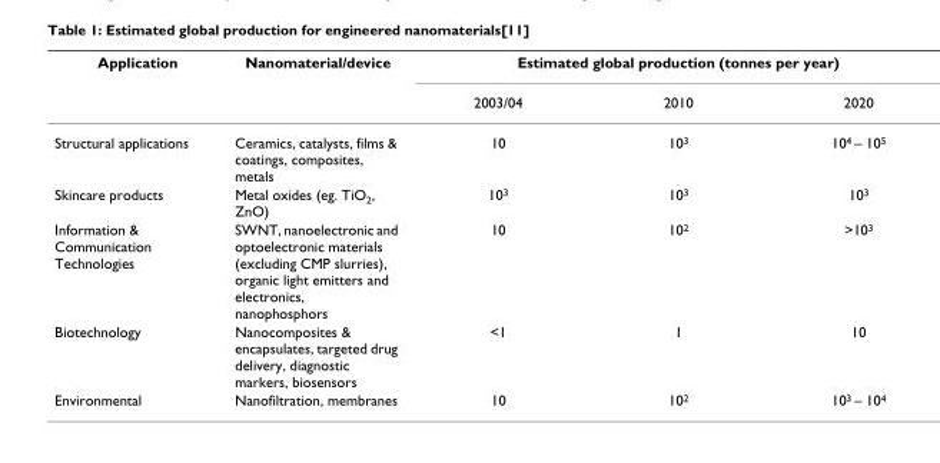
<table><thead><tr><td rowspan="2">Application</td><td rowspan="2">Nanomaterial/device</td><td colspan="3">Estimated global production (tonnes per year)</td></tr><tr><td>2003/04</td><td>2010</td><td>2020</td></tr></thead><tbody><tr><td>Structural applications</td><td>Ceramics, catalysts, films &amp; coatings, composites, metals</td><td>10</td><td>10<sup>3</sup></td><td>10<sup>4</sup> – 10<sup>5</sup></td></tr><tr><td>Skincare products</td><td>Metal oxides (eg. TiO<sub>2</sub>, ZnO)</td><td>10<sup>3</sup></td><td>10<sup>3</sup></td><td>10<sup>3</sup></td></tr><tr><td>Information &amp; Communication Technologies</td><td>SWNT, nanoelectronic and optoelectronic materials (excluding CMP slurries), organic light emitters and electronics, nanophosphors</td><td>10</td><td>10<sup>2</sup></td><td>&gt;10<sup>3</sup></td></tr><tr><td>Biotechnology</td><td>Nanocomposites &amp; encapsulates, targeted drug delivery, diagnostic markers, biosensors</td><td>&lt;1</td><td>1</td><td>10</td></tr><tr><td>Environmental</td><td>Nanofiltration, membranes</td><td>10</td><td>10<sup>2</sup></td><td>10<sup>3</sup> – 10<sup>4</sup></td></tr></tbody></table>